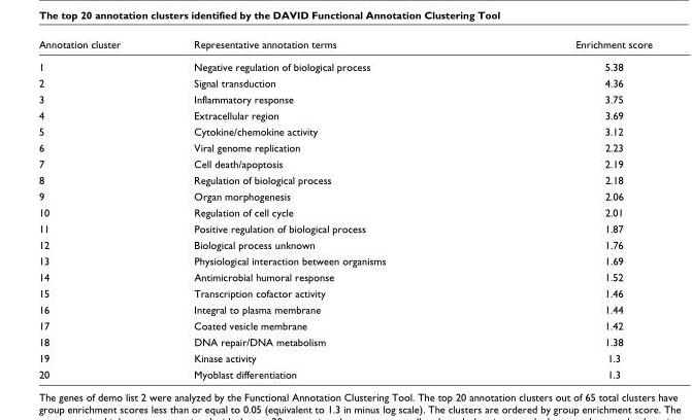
<table><thead><tr><td>Annotation cluster</td><td>Representative annotation terms</td><td>Enrichment score</td></tr></thead><tbody><tr><td>1</td><td>Negative regulation of biological process</td><td>5.38</td></tr><tr><td>2</td><td>Signal transduction</td><td>4.36</td></tr><tr><td>3</td><td>Inflammatory response</td><td>3.75</td></tr><tr><td>4</td><td>Extracellular region</td><td>3.69</td></tr><tr><td>5</td><td>Cytokine/chemokine activity</td><td>3.12</td></tr><tr><td>6</td><td>Viral genome replication</td><td>2.23</td></tr><tr><td>7</td><td>Cell death/apoptosis</td><td>2.19</td></tr><tr><td>8</td><td>Regulation of biological process</td><td>2.18</td></tr><tr><td>9</td><td>Organ morphogenesis</td><td>2.06</td></tr><tr><td>10</td><td>Regulation of cell cycle</td><td>2.01</td></tr><tr><td>11</td><td>Positive regulation of biological process</td><td>1.87</td></tr><tr><td>12</td><td>Biological process unknown</td><td>1.76</td></tr><tr><td>13</td><td>Physiological interaction between organisms</td><td>1.69</td></tr><tr><td>14</td><td>Antimicrobial humoral response</td><td>1.52</td></tr><tr><td>15</td><td>Transcription cofactor activity</td><td>1.46</td></tr><tr><td>16</td><td>Integral to plasma membrane</td><td>1.44</td></tr><tr><td>17</td><td>Coated vesicle membrane</td><td>1.42</td></tr><tr><td>18</td><td>DNA repair/DNA metabolism</td><td>1.38</td></tr><tr><td>19</td><td>Kinase activity</td><td>1.3</td></tr><tr><td>20</td><td>Myoblast differentiation</td><td>1.3</td></tr></tbody></table>